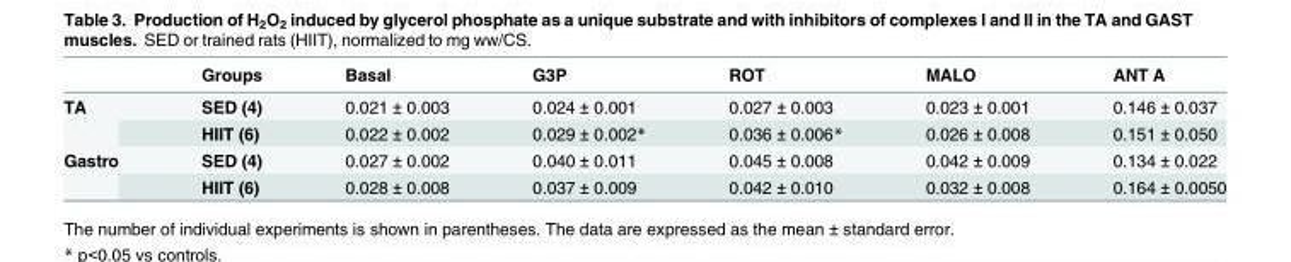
<table><thead><tr><td></td><td>Groups</td><td>Basal</td><td>G3P</td><td>ROT</td><td>MALO</td><td>ANT A</td></tr></thead><tbody><tr><td rowspan="2">TA</td><td>SED (4)</td><td>0.021 ± 0.003</td><td>0.024 ± 0.001</td><td>0.027 ± 0.003</td><td>0.023 ± 0.001</td><td>0.146 ± 0.037</td></tr><tr><td>HIIT (6)</td><td>0.022 ± 0.002</td><td>0.029 ± 0.002*</td><td>0.036 ± 0.006*</td><td>0.026 ± 0.008</td><td>0.151 ± 0.050</td></tr><tr><td rowspan="2">Gastro</td><td>SED (4)</td><td>0.027 ± 0.002</td><td>0.040 ± 0.011</td><td>0.045 ± 0.008</td><td>0.042 ± 0.009</td><td>0.134 ± 0.022</td></tr><tr><td>HIIT (6)</td><td>0.028 ± 0.008</td><td>0.037 ± 0.009</td><td>0.042 ± 0.010</td><td>0.032 ± 0.008</td><td>0.164 ± 0.0050</td></tr></tbody></table>